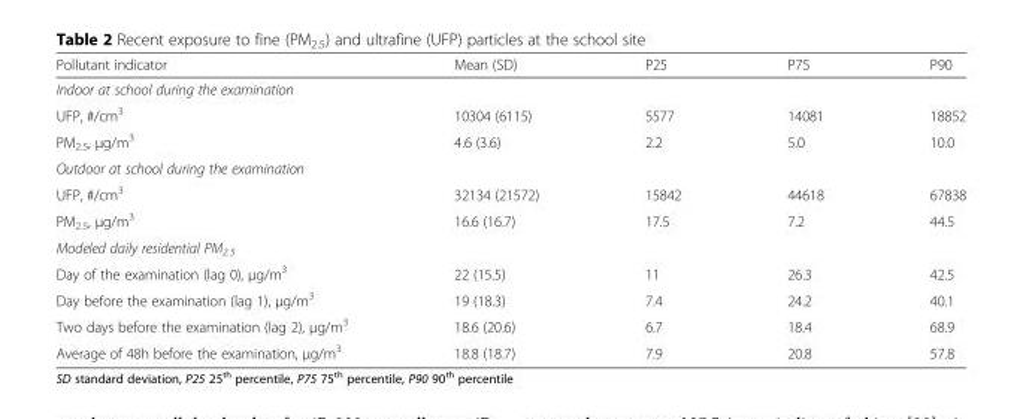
<table><thead><tr><td>Pollutant indicator</td><td>Mean (SD)</td><td>P25</td><td>P75</td><td>P90</td></tr></thead><tbody><tr><td colspan="5">Indoor at school during the examination</td></tr><tr><td>UFP, #/cm<sup>3</sup></td><td>10304 (6115)</td><td>5577</td><td>14081</td><td>18852</td></tr><tr><td>PM<sub>2.5</sub>, μg/m<sup>3</sup></td><td>4.6 (3.6)</td><td>2.2</td><td>5.0</td><td>10.0</td></tr><tr><td colspan="5">Outdoor at school during the examination</td></tr><tr><td>UFP, #/cm<sup>3</sup></td><td>32134 (21572)</td><td>15842</td><td>44618</td><td>67838</td></tr><tr><td>PM<sub>2.5</sub>, μg/m<sup>3</sup></td><td>16.6 (16.7)</td><td>17.5</td><td>7.2</td><td>44.5</td></tr><tr><td colspan="5">Modeled daily residential PM<sub>2.5</sub></td></tr><tr><td>Day of the examination (lag 0), μg/m<sup>3</sup></td><td>22 (15.5)</td><td>11</td><td>26.3</td><td>42.5</td></tr><tr><td>Day before the examination (lag 1), μg/m<sup>3</sup></td><td>19 (18.3)</td><td>7.4</td><td>24.2</td><td>40.1</td></tr><tr><td>Two days before the examination (lag 2), μg/m<sup>3</sup></td><td>18.6 (20.6)</td><td>6.7</td><td>18.4</td><td>68.9</td></tr><tr><td>Average of 48h before the examination, μg/m<sup>3</sup></td><td>18.8 (18.7)</td><td>7.9</td><td>20.8</td><td>57.8</td></tr></tbody></table>